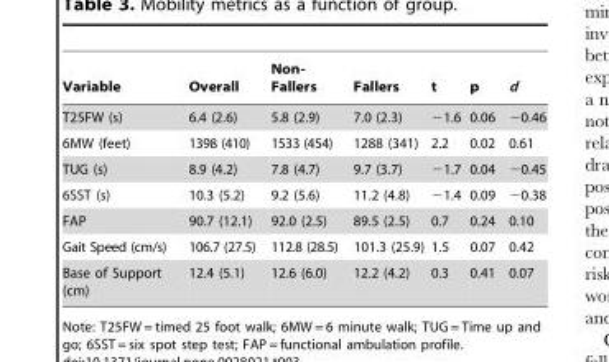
<table><thead><tr><td>Variable</td><td>Overall</td><td>Non- Fallers</td><td>Fallers</td><td>t</td><td>p</td><td>d</td></tr></thead><tbody><tr><td>T25FW (s)</td><td>6.4 (2.6)</td><td>5.8 (2.9)</td><td>7.0 (2.3)</td><td>−1.6</td><td>0.06</td><td>−0.46</td></tr><tr><td>6MW (feet)</td><td>1398 (410)</td><td>1533 (454)</td><td>1288 (341)</td><td>2.2</td><td>0.02</td><td>0.61</td></tr><tr><td>TUG (s)</td><td>8.9 (4.2)</td><td>7.8 (4.7)</td><td>9.7 (3.7)</td><td>−1.7</td><td>0.04</td><td>−0.45</td></tr><tr><td>6SST (s)</td><td>10.3 (5.2)</td><td>9.2 (5.6)</td><td>11.2 (4.8)</td><td>−1.4</td><td>0.09</td><td>−0.38</td></tr><tr><td>FAP</td><td>90.7 (12.1)</td><td>92.0 (2.5)</td><td>89.5 (2.5)</td><td>0.7</td><td>0.24</td><td>0.10</td></tr><tr><td>Gait Speed (cm/s)</td><td>106.7 (27.5)</td><td>112.8 (28.5)</td><td>101.3 (25.9)</td><td>1.5</td><td>0.07</td><td>0.42</td></tr><tr><td>Base of Support (cm)</td><td>12.4 (5.1)</td><td>12.6 (6.0)</td><td>12.2 (4.2)</td><td>0.3</td><td>0.41</td><td>0.07</td></tr></tbody></table>